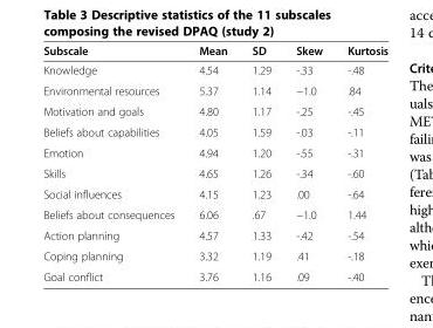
<table><thead><tr><td>Subscale</td><td>Mean</td><td>SD</td><td>Skew</td><td>Kurtosis</td></tr></thead><tbody><tr><td>Knowledge</td><td>4.54</td><td>1.29</td><td>-.33</td><td>-.48</td></tr><tr><td>Environmental resources</td><td>5.37</td><td>1.14</td><td>−1.0</td><td>.84</td></tr><tr><td>Motivation and goals</td><td>4.80</td><td>1.17</td><td>-.25</td><td>-.45</td></tr><tr><td>Beliefs about capabilities</td><td>4.05</td><td>1.59</td><td>-.03</td><td>-.11</td></tr><tr><td>Emotion</td><td>4.94</td><td>1.20</td><td>-.55</td><td>-.31</td></tr><tr><td>Skills</td><td>4.65</td><td>1.26</td><td>-.34</td><td>-.60</td></tr><tr><td>Social influences</td><td>4.15</td><td>1.23</td><td>.00</td><td>-.64</td></tr><tr><td>Beliefs about consequences</td><td>6.06</td><td>.67</td><td>−1.0</td><td>1.44</td></tr><tr><td>Action planning</td><td>4.57</td><td>1.33</td><td>-.42</td><td>-.54</td></tr><tr><td>Coping planning</td><td>3.32</td><td>1.19</td><td>.41</td><td>-.18</td></tr><tr><td>Goal conflict</td><td>3.76</td><td>1.16</td><td>.09</td><td>-.40</td></tr></tbody></table>